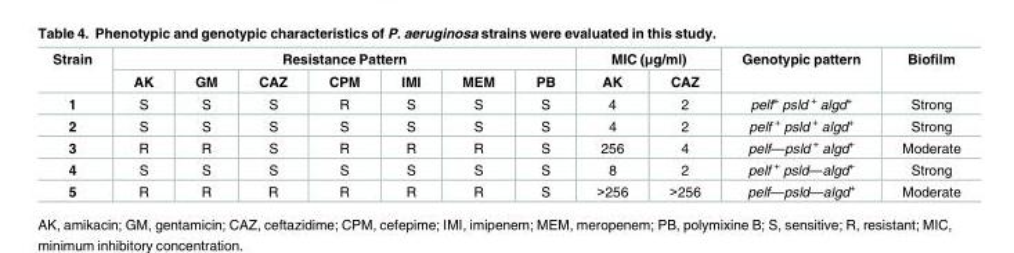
<table><thead><tr><td rowspan="2">Strain</td><td colspan="7">Resistance Pattern</td><td colspan="2">MIC (μg/ml)</td><td rowspan="2">Genotypic pattern</td><td rowspan="2">Biofilm</td></tr><tr><td>AK</td><td>GM</td><td>CAZ</td><td>CPM</td><td>IMI</td><td>MEM</td><td>PB</td><td>AK</td><td>CAZ</td></tr></thead><tbody><tr><td>1</td><td>S</td><td>S</td><td>S</td><td>R</td><td>S</td><td>S</td><td>S</td><td>4</td><td>2</td><td>pelf<sup>+</sup> psld <sup>+</sup> algd<sup>+</sup></td><td>Strong</td></tr><tr><td>2</td><td>S</td><td>S</td><td>S</td><td>S</td><td>S</td><td>S</td><td>S</td><td>4</td><td>2</td><td>pelf <sup>+</sup> psld <sup>+</sup> algd<sup>+</sup></td><td>Strong</td></tr><tr><td>3</td><td>R</td><td>R</td><td>S</td><td>R</td><td>R</td><td>R</td><td>S</td><td>256</td><td>4</td><td>pelf—psld <sup>+</sup> algd<sup>+</sup></td><td>Moderate</td></tr><tr><td>4</td><td>S</td><td>S</td><td>S</td><td>S</td><td>S</td><td>S</td><td>S</td><td>8</td><td>2</td><td>pelf <sup>+</sup> psld—algd<sup>+</sup></td><td>Strong</td></tr><tr><td>5</td><td>R</td><td>R</td><td>R</td><td>R</td><td>R</td><td>R</td><td>S</td><td>&gt;256</td><td>&gt;256</td><td>pelf—psld—algd<sup>+</sup></td><td>Moderate</td></tr></tbody></table>